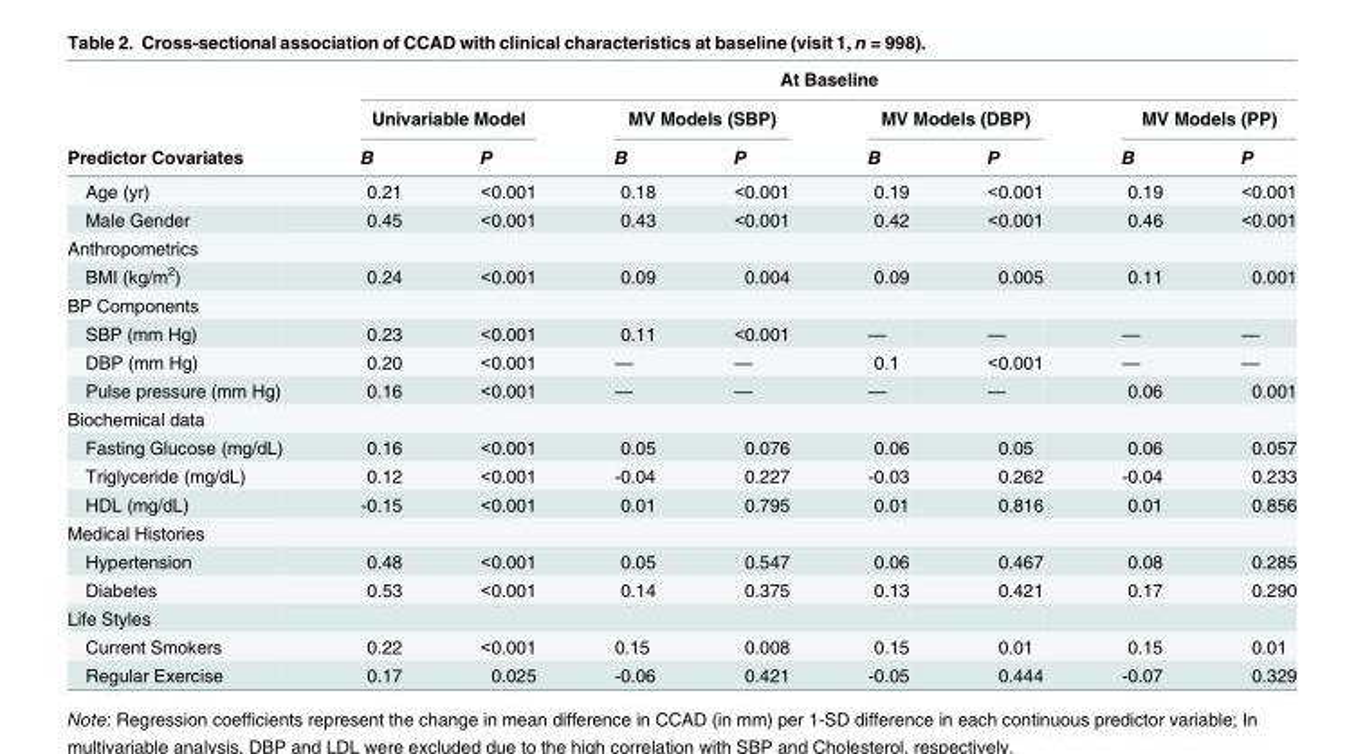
<table><thead><tr><td rowspan="3">Predictor Covariates</td><td colspan="8">At Baseline</td></tr><tr><td colspan="2">Univariable Model</td><td colspan="2">MV Models (SBP)</td><td colspan="2">MV Models (DBP)</td><td colspan="2">MV Models (PP)</td></tr><tr><td>B</td><td>P</td><td>B</td><td>P</td><td>B</td><td>P</td><td>B</td><td>P</td></tr></thead><tbody><tr><td>Age (yr)</td><td>0.21</td><td>&lt;0.001</td><td>0.18</td><td>&lt;0.001</td><td>0.19</td><td>&lt;0.001</td><td>0.19</td><td>&lt;0.001</td></tr><tr><td>Male Gender</td><td>0.45</td><td>&lt;0.001</td><td>0.43</td><td>&lt;0.001</td><td>0.42</td><td>&lt;0.001</td><td>0.46</td><td>&lt;0.001</td></tr><tr><td colspan="9">Anthropometrics</td></tr><tr><td>BMI (kg/m<sup>2</sup>)</td><td>0.24</td><td>&lt;0.001</td><td>0.09</td><td>0.004</td><td>0.09</td><td>0.005</td><td>0.11</td><td>0.001</td></tr><tr><td colspan="9">BP Components</td></tr><tr><td>SBP (mm Hg)</td><td>0.23</td><td>&lt;0.001</td><td>0.11</td><td>&lt;0.001</td><td>—</td><td>—</td><td>—</td><td>—</td></tr><tr><td>DBP (mm Hg)</td><td>0.20</td><td>&lt;0.001</td><td>—</td><td>—</td><td>0.1</td><td>&lt;0.001</td><td>—</td><td>—</td></tr><tr><td>Pulse pressure (mm Hg)</td><td>0.16</td><td>&lt;0.001</td><td>—</td><td>—</td><td>—</td><td>—</td><td>0.06</td><td>0.001</td></tr><tr><td colspan="9">Biochemical data</td></tr><tr><td>Fasting Glucose (mg/dL)</td><td>0.16</td><td>&lt;0.001</td><td>0.05</td><td>0.076</td><td>0.06</td><td>0.05</td><td>0.06</td><td>0.057</td></tr><tr><td>Triglyceride (mg/dL)</td><td>0.12</td><td>&lt;0.001</td><td>-0.04</td><td>0.227</td><td>-0.03</td><td>0.262</td><td>-0.04</td><td>0.233</td></tr><tr><td>HDL (mg/dL)</td><td>-0.15</td><td>&lt;0.001</td><td>0.01</td><td>0.795</td><td>0.01</td><td>0.816</td><td>0.01</td><td>0.856</td></tr><tr><td colspan="9">Medical Histories</td></tr><tr><td>Hypertension</td><td>0.48</td><td>&lt;0.001</td><td>0.05</td><td>0.547</td><td>0.06</td><td>0.467</td><td>0.08</td><td>0.285</td></tr><tr><td>Diabetes</td><td>0.53</td><td>&lt;0.001</td><td>0.14</td><td>0.375</td><td>0.13</td><td>0.421</td><td>0.17</td><td>0.290</td></tr><tr><td colspan="9">Life Styles</td></tr><tr><td>Current Smokers</td><td>0.22</td><td>&lt;0.001</td><td>0.15</td><td>0.008</td><td>0.15</td><td>0.01</td><td>0.15</td><td>0.01</td></tr><tr><td>Regular Exercise</td><td>0.17</td><td>0.025</td><td>-0.06</td><td>0.421</td><td>-0.05</td><td>0.444</td><td>-0.07</td><td>0.329</td></tr></tbody></table>